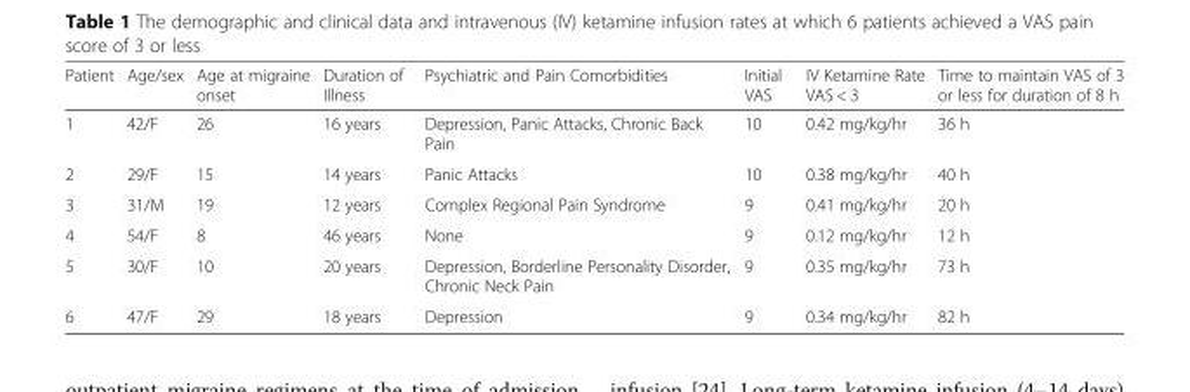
<table><thead><tr><td>Patient</td><td>Age/sex</td><td>Age at migraine onset</td><td>Duration of Illness</td><td>Psychiatric and Pain Comorbidities</td><td>Initial VAS</td><td>IV Ketamine Rate VAS &lt; 3</td><td>Time to maintain VAS of 3 or less for duration of 8 h</td></tr></thead><tbody><tr><td>1</td><td>42/F</td><td>26</td><td>16 years</td><td>Depression, Panic Attacks, Chronic Back Pain</td><td>10</td><td>0.42 mg/kg/hr</td><td>36 h</td></tr><tr><td>2</td><td>29/F</td><td>15</td><td>14 years</td><td>Panic Attacks</td><td>10</td><td>0.38 mg/kg/hr</td><td>40 h</td></tr><tr><td>3</td><td>31/M</td><td>19</td><td>12 years</td><td>Complex Regional Pain Syndrome</td><td>9</td><td>0.41 mg/kg/hr</td><td>20 h</td></tr><tr><td>4</td><td>54/F</td><td>8</td><td>46 years</td><td>None</td><td>9</td><td>0.12 mg/kg/hr</td><td>12 h</td></tr><tr><td>5</td><td>30/F</td><td>10</td><td>20 years</td><td>Depression, Borderline Personality Disorder, Chronic Neck Pain</td><td>9</td><td>0.35 mg/kg/hr</td><td>73 h</td></tr><tr><td>6</td><td>47/F</td><td>29</td><td>18 years</td><td>Depression</td><td>9</td><td>0.34 mg/kg/hr</td><td>82 h</td></tr></tbody></table>